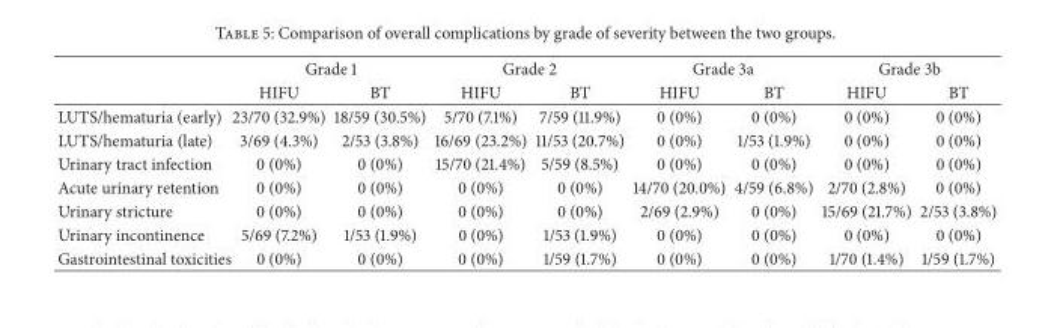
<table><thead><tr><td rowspan="2"></td><td colspan="2">Grade 1</td><td colspan="2">Grade 2</td><td colspan="2">Grade 3a</td><td colspan="2">Grade 3b</td></tr><tr><td>HIFU</td><td>BT</td><td>HIFU</td><td>BT</td><td>HIFU</td><td>BT</td><td>HIFU</td><td>BT</td></tr></thead><tbody><tr><td>LUTS/hematuria (early)</td><td>23/70 (32.9%)</td><td>18/59 (30.5%)</td><td>5/70 (7.1%)</td><td>7/59 (11.9%)</td><td>0 (0%)</td><td>0 (0%)</td><td>0 (0%)</td><td>0 (0%)</td></tr><tr><td>LUTS/hematuria (late)</td><td>3/69 (4.3%)</td><td>2/53 (3.8%)</td><td>16/69 (23.2%)</td><td>11/53 (20.7%)</td><td>0 (0%)</td><td>1/53 (1.9%)</td><td>0 (0%)</td><td>0 (0%)</td></tr><tr><td>Urinary tract infection</td><td>0 (0%)</td><td>0 (0%)</td><td>15/70 (21.4%)</td><td>5/59 (8.5%)</td><td>0 (0%)</td><td>0 (0%)</td><td>0 (0%)</td><td>0 (0%)</td></tr><tr><td>Acute urinary retention</td><td>0 (0%)</td><td>0 (0%)</td><td>0 (0%)</td><td>0 (0%)</td><td>14/70 (20.0%)</td><td>4/59 (6.8%)</td><td>2/70 (2.8%)</td><td>0 (0%)</td></tr><tr><td>Urinary stricture</td><td>0 (0%)</td><td>0 (0%)</td><td>0 (0%)</td><td>0 (0%)</td><td>2/69 (2.9%)</td><td>0 (0%)</td><td>15/69 (21.7%)</td><td>2/53 (3.8%)</td></tr><tr><td>Urinary incontinence</td><td>5/69 (7.2%)</td><td>1/53 (1.9%)</td><td>0 (0%)</td><td>1/53 (1.9%)</td><td>0 (0%)</td><td>0 (0%)</td><td>0 (0%)</td><td>0 (0%)</td></tr><tr><td>Gastrointestinal toxicities</td><td>0 (0%)</td><td>0 (0%)</td><td>0 (0%)</td><td>1/59 (1.7%)</td><td>0 (0%)</td><td>0 (0%)</td><td>1/70 (1.4%)</td><td>1/59 (1.7%)</td></tr></tbody></table>